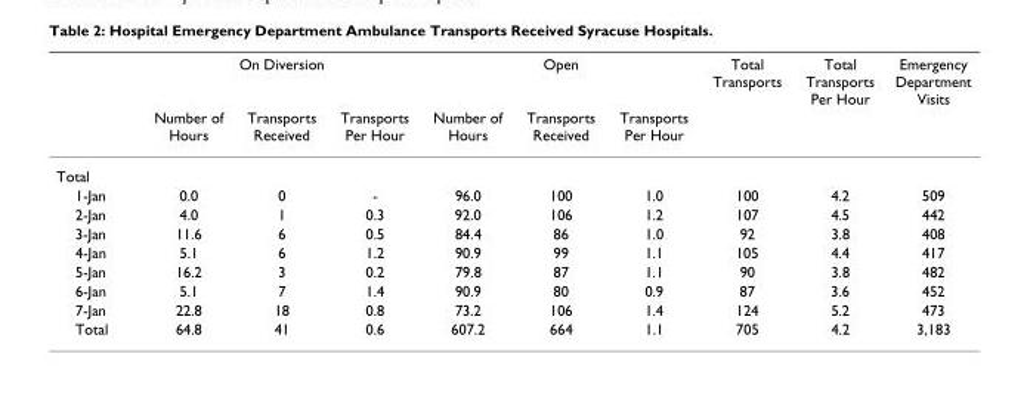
<table><thead><tr><td rowspan="2"></td><td colspan="3">On Diversion</td><td colspan="3">Open</td><td rowspan="2">Total Transports</td><td rowspan="2">Total Transports Per Hour</td><td rowspan="2">Emergency Department Visits</td></tr><tr><td>Number of Hours</td><td>Transports Received</td><td>Transports Per Hour</td><td>Number of Hours</td><td>Transports Received</td><td>Transports Per Hour</td></tr></thead><tbody><tr><td colspan="10">Total</td></tr><tr><td>1-Jan</td><td>0.0</td><td>0</td><td>-</td><td>96.0</td><td>100</td><td>1.0</td><td>100</td><td>4.2</td><td>509</td></tr><tr><td>2-Jan</td><td>4.0</td><td>1</td><td>0.3</td><td>92.0</td><td>106</td><td>1.2</td><td>107</td><td>4.5</td><td>442</td></tr><tr><td>3-Jan</td><td>11.6</td><td>6</td><td>0.5</td><td>84.4</td><td>86</td><td>1.0</td><td>92</td><td>3.8</td><td>408</td></tr><tr><td>4-Jan</td><td>5.1</td><td>6</td><td>1.2</td><td>90.9</td><td>99</td><td>1.1</td><td>105</td><td>4.4</td><td>417</td></tr><tr><td>5-Jan</td><td>16.2</td><td>3</td><td>0.2</td><td>79.8</td><td>87</td><td>1.1</td><td>90</td><td>3.8</td><td>482</td></tr><tr><td>6-Jan</td><td>5.1</td><td>7</td><td>1.4</td><td>90.9</td><td>80</td><td>0.9</td><td>87</td><td>3.6</td><td>452</td></tr><tr><td>7-Jan</td><td>22.8</td><td>18</td><td>0.8</td><td>73.2</td><td>106</td><td>1.4</td><td>124</td><td>5.2</td><td>473</td></tr><tr><td>Total</td><td>64.8</td><td>41</td><td>0.6</td><td>607.2</td><td>664</td><td>1.1</td><td>705</td><td>4.2</td><td>3,183</td></tr></tbody></table>